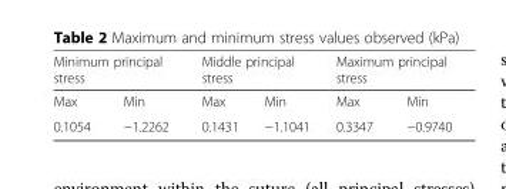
<table><thead><tr><td colspan="2">Minimum principal stress</td><td colspan="2">Middle principal stress</td><td colspan="2">Maximum principal stress</td></tr><tr><td>Max</td><td>Min</td><td>Max</td><td>Min</td><td>Max</td><td>Min</td></tr></thead><tbody><tr><td>0.1054</td><td>−1.2262</td><td>0.1431</td><td>−1.1041</td><td>0.3347</td><td>−0.9740</td></tr></tbody></table>